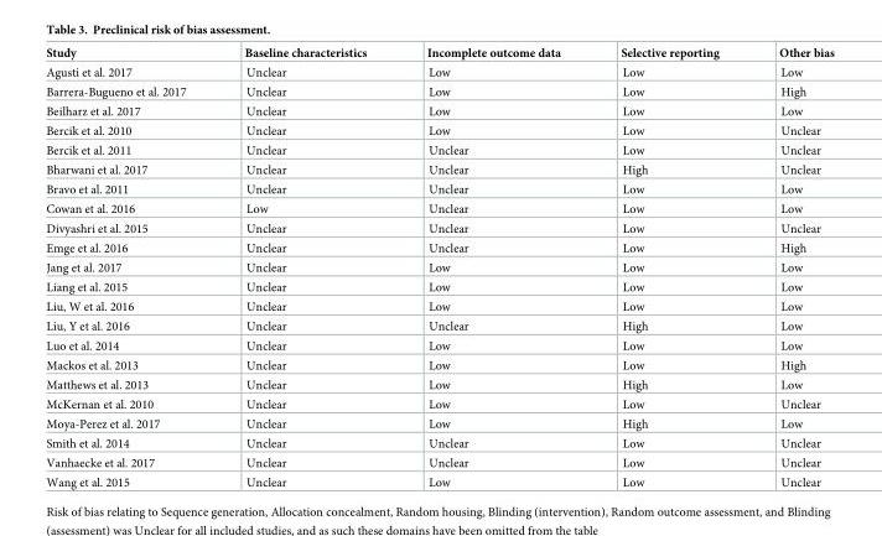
<table><thead><tr><td>Study</td><td>Baseline characteristics</td><td>Incomplete outcome data</td><td>Selective reporting</td><td>Other bias</td></tr></thead><tbody><tr><td>Agusti et al. 2017</td><td>Unclear</td><td>Low</td><td>Low</td><td>Low</td></tr><tr><td>Barrera-Bugueno et al. 2017</td><td>Unclear</td><td>Low</td><td>Low</td><td>High</td></tr><tr><td>Beilharz et al. 2017</td><td>Unclear</td><td>Low</td><td>Low</td><td>Low</td></tr><tr><td>Bercik et al. 2010</td><td>Unclear</td><td>Low</td><td>Low</td><td>Unclear</td></tr><tr><td>Bercik et al. 2011</td><td>Unclear</td><td>Unclear</td><td>Low</td><td>Unclear</td></tr><tr><td>Bharwani et al. 2017</td><td>Unclear</td><td>Unclear</td><td>High</td><td>Unclear</td></tr><tr><td>Bravo et al. 2011</td><td>Unclear</td><td>Unclear</td><td>Low</td><td>Low</td></tr><tr><td>Cowan et al. 2016</td><td>Low</td><td>Unclear</td><td>Low</td><td>Low</td></tr><tr><td>Divyashri et al. 2015</td><td>Unclear</td><td>Unclear</td><td>Low</td><td>Unclear</td></tr><tr><td>Emge et al. 2016</td><td>Unclear</td><td>Unclear</td><td>Low</td><td>High</td></tr><tr><td>Jang et al. 2017</td><td>Unclear</td><td>Low</td><td>Low</td><td>Low</td></tr><tr><td>Liang et al. 2015</td><td>Unclear</td><td>Low</td><td>Low</td><td>Low</td></tr><tr><td>Liu, W et al. 2016</td><td>Unclear</td><td>Low</td><td>Low</td><td>Low</td></tr><tr><td>Liu, Y et al. 2016</td><td>Unclear</td><td>Unclear</td><td>High</td><td>Low</td></tr><tr><td>Luo et al. 2014</td><td>Unclear</td><td>Low</td><td>Low</td><td>Low</td></tr><tr><td>Mackos et al. 2013</td><td>Unclear</td><td>Low</td><td>Low</td><td>High</td></tr><tr><td>Matthews et al. 2013</td><td>Unclear</td><td>Low</td><td>High</td><td>Low</td></tr><tr><td>McKernan et al. 2010</td><td>Unclear</td><td>Low</td><td>Low</td><td>Unclear</td></tr><tr><td>Moya-Perez et al. 2017</td><td>Unclear</td><td>Low</td><td>High</td><td>Low</td></tr><tr><td>Smith et al. 2014</td><td>Unclear</td><td>Unclear</td><td>Low</td><td>Unclear</td></tr><tr><td>Vanhaecke et al. 2017</td><td>Unclear</td><td>Unclear</td><td>Low</td><td>Unclear</td></tr><tr><td>Wang et al. 2015</td><td>Unclear</td><td>Low</td><td>Low</td><td>Unclear</td></tr></tbody></table>